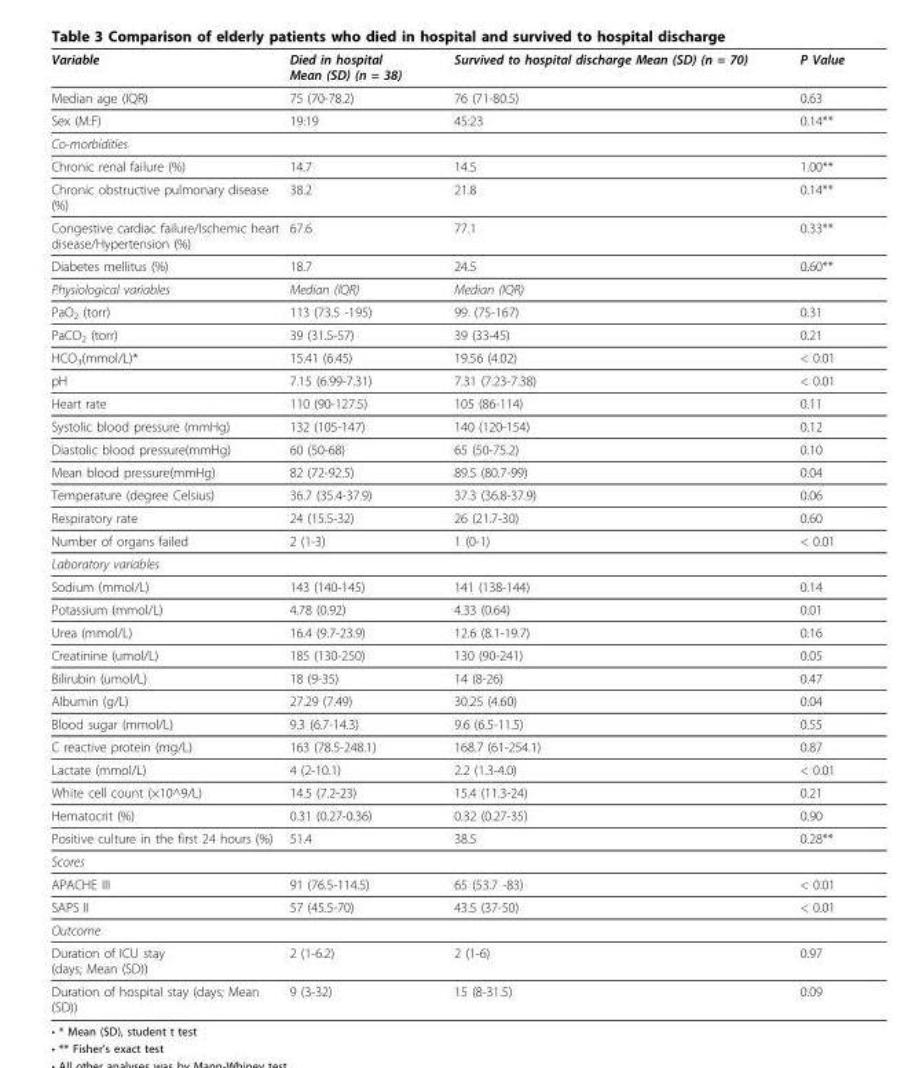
<table><thead><tr><td>Variable</td><td>Died in hospital Mean (SD) (n = 38)</td><td>Survived to hospital discharge Mean (SD) (n = 70)</td><td>P Value</td></tr></thead><tbody><tr><td>Median age (IQR)</td><td>75 (70-78.2)</td><td>76 (71-80.5)</td><td>0.63</td></tr><tr><td>Sex (M:F)</td><td>19:19</td><td>45:23</td><td>0.14**</td></tr><tr><td colspan="4">Co-morbidities</td></tr><tr><td>Chronic renal failure (%)</td><td>14.7</td><td>14.5</td><td>1.00**</td></tr><tr><td>Chronic obstructive pulmonary disease (%)</td><td>38.2</td><td>21.8</td><td>0.14**</td></tr><tr><td>Congestive cardiac failure/Ischemic heart disease/Hypertension (%)</td><td>67.6</td><td>77.1</td><td>0.33**</td></tr><tr><td>Diabetes mellitus (%)</td><td>18.7</td><td>24.5</td><td>0.60**</td></tr><tr><td>Physiological variables</td><td>Median (IQR)</td><td>Median (IQR)</td><td></td></tr><tr><td>PaO<sub>2</sub> (torr)</td><td>113 (73.5 -195)</td><td>99. (75-167)</td><td>0.31</td></tr><tr><td>PaCO<sub>2</sub> (torr)</td><td>39 (31.5-57)</td><td>39 (33-45)</td><td>0.21</td></tr><tr><td>HCO<sub>3</sub>(mmol/L)*</td><td>15.41 (6.45)</td><td>19.56 (4.02)</td><td>&lt; 0.01</td></tr><tr><td>pH</td><td>7.15 (6.99-7.31)</td><td>7.31 (7.23-7.38)</td><td>&lt; 0.01</td></tr><tr><td>Heart rate</td><td>110 (90-127.5)</td><td>105 (86-114)</td><td>0.11</td></tr><tr><td>Systolic blood pressure (mmHg)</td><td>132 (105-147)</td><td>140 (120-154)</td><td>0.12</td></tr><tr><td>Diastolic blood pressure(mmHg)</td><td>60 (50-68)</td><td>65 (50-75.2)</td><td>0.10</td></tr><tr><td>Mean blood pressure(mmHg)</td><td>82 (72-92.5)</td><td>89.5 (80.7-99)</td><td>0.04</td></tr><tr><td>Temperature (degree Celsius)</td><td>36.7 (35.4-37.9)</td><td>37.3 (36.8-37.9)</td><td>0.06</td></tr><tr><td>Respiratory rate</td><td>24 (15.5-32)</td><td>26 (21.7-30)</td><td>0.60</td></tr><tr><td>Number of organs failed</td><td>2 (1-3)</td><td>1 (0-1)</td><td>&lt; 0.01</td></tr><tr><td colspan="4">Laboratory variables</td></tr><tr><td>Sodium (mmol/L)</td><td>143 (140-145)</td><td>141 (138-144)</td><td>0.14</td></tr><tr><td>Potassium (mmol/L)</td><td>4.78 (0.92)</td><td>4.33 (0.64)</td><td>0.01</td></tr><tr><td>Urea (mmol/L)</td><td>16.4 (9.7-23.9)</td><td>12.6 (8.1-19.7)</td><td>0.16</td></tr><tr><td>Creatinine (umol/L)</td><td>185 (130-250)</td><td>130 (90-241)</td><td>0.05</td></tr><tr><td>Bilirubin (umol/L)</td><td>18 (9-35)</td><td>14 (8-26)</td><td>0.47</td></tr><tr><td>Albumin (g/L)</td><td>27.29 (7.49)</td><td>30.25 (4.60)</td><td>0.04</td></tr><tr><td>Blood sugar (mmol/L)</td><td>9.3 (6.7-14.3)</td><td>9.6 (6.5-11.5)</td><td>0.55</td></tr><tr><td>C reactive protein (mg/L)</td><td>163 (78.5-248.1)</td><td>168.7 (61-254.1)</td><td>0.87</td></tr><tr><td>Lactate (mmol/L)</td><td>4 (2-10.1)</td><td>2.2 (1.3-4.0)</td><td>&lt; 0.01</td></tr><tr><td>White cell count (×10^9/L)</td><td>14.5 (7.2-23)</td><td>15.4 (11.3-24)</td><td>0.21</td></tr><tr><td>Hematocrit (%)</td><td>0.31 (0.27-0.36)</td><td>0.32 (0.27-35)</td><td>0.90</td></tr><tr><td>Positive culture in the first 24 hours (%)</td><td>51.4</td><td>38.5</td><td>0.28**</td></tr><tr><td colspan="4">Scores</td></tr><tr><td>APACHE III</td><td>91 (76.5-114.5)</td><td>65 (53.7 -83)</td><td>&lt; 0.01</td></tr><tr><td>SAPS II</td><td>57 (45.5-70)</td><td>43.5 (37-50)</td><td>&lt; 0.01</td></tr><tr><td colspan="4">Outcome</td></tr><tr><td>Duration of ICU stay (days; Mean (SD))</td><td>2 (1-6.2)</td><td>2 (1-6)</td><td>0.97</td></tr><tr><td>Duration of hospital stay (days; Mean (SD))</td><td>9 (3-32)</td><td>15 (8-31.5)</td><td>0.09</td></tr></tbody></table>